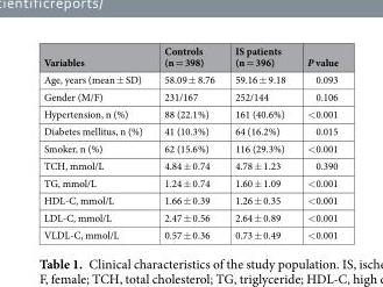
<table><thead><tr><td>Variables</td><td>Controls (n = 398)</td><td>IS patients (n = 396)</td><td>P value</td></tr></thead><tbody><tr><td>Age, years (mean ± SD)</td><td>58.09 ± 8.76</td><td>59.16 ± 9.18</td><td>0.093</td></tr><tr><td>Gender (M/F)</td><td>231/167</td><td>252/144</td><td>0.106</td></tr><tr><td>Hypertension, n (%)</td><td>88 (22.1%)</td><td>161 (40.6%)</td><td>&lt;0.001</td></tr><tr><td>Diabetes mellitus, n (%)</td><td>41 (10.3%)</td><td>64 (16.2%)</td><td>0.015</td></tr><tr><td>Smoker, n (%)</td><td>62 (15.6%)</td><td>116 (29.3%)</td><td>&lt;0.001</td></tr><tr><td>TCH, mmol/L</td><td>4.84 ± 0.74</td><td>4.78 ± 1.23</td><td>0.390</td></tr><tr><td>TG, mmol/L</td><td>1.24 ± 0.74</td><td>1.60 ± 1.09</td><td>&lt;0.001</td></tr><tr><td>HDL-C, mmol/L</td><td>1.66 ± 0.39</td><td>1.26 ± 0.35</td><td>&lt;0.001</td></tr><tr><td>LDL-C, mmol/L</td><td>2.47 ± 0.56</td><td>2.64 ± 0.89</td><td>&lt;0.001</td></tr><tr><td>VLDL-C, mmol/L</td><td>0.57 ± 0.36</td><td>0.73 ± 0.49</td><td>&lt;0.001</td></tr></tbody></table>